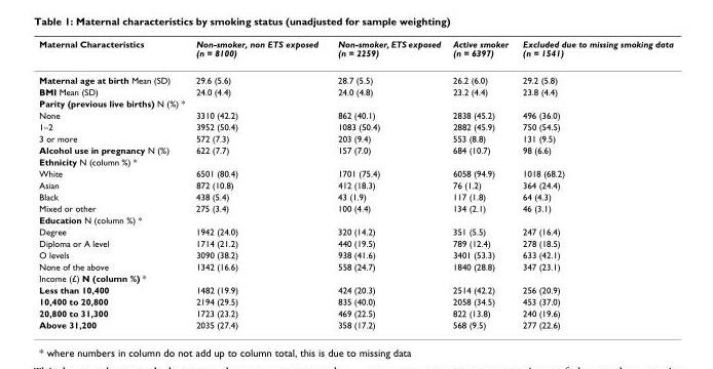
<table><thead><tr><td>Maternal Characteristics</td><td>Non-smoker, non ETS exposed (n = 8100)</td><td>Non-smoker, ETS exposed (n = 2259)</td><td>Active smoker (n = 6397)</td><td>Excluded due to missing smoking data (n = 1541)</td></tr></thead><tbody><tr><td>Maternal age at birth Mean (SD)</td><td>29.6 (5.6)</td><td>28.7 (5.5)</td><td>26.2 (6.0)</td><td>29.2 (5.8)</td></tr><tr><td>BMI Mean (SD)</td><td>24.0 (4.4)</td><td>24.0 (4.8)</td><td>23.2 (4.4)</td><td>23.8 (4.4)</td></tr><tr><td colspan="5">Parity (previous live births) N (%) *</td></tr><tr><td>None</td><td>3310 (42.2)</td><td>862 (40.1)</td><td>2838 (45.2)</td><td>496 (36.0)</td></tr><tr><td>1–2</td><td>3952 (50.4)</td><td>1083 (50.4)</td><td>2882 (45.9)</td><td>750 (54.5)</td></tr><tr><td>3 or more</td><td>572 (7.3)</td><td>203 (9.4)</td><td>553 (8.8)</td><td>131 (9.5)</td></tr><tr><td>Alcohol use in pregnancy N (%)</td><td>622 (7.7)</td><td>157 (7.0)</td><td>684 (10.7)</td><td>98 (6.6)</td></tr><tr><td colspan="5">Ethnicity N (column %) *</td></tr><tr><td>White</td><td>6501 (80.4)</td><td>1701 (75.4)</td><td>6058 (94.9)</td><td>1018 (68.2)</td></tr><tr><td>Asian</td><td>872 (10.8)</td><td>412 (18.3)</td><td>76 (1.2)</td><td>364 (24.4)</td></tr><tr><td>Black</td><td>438 (5.4)</td><td>43 (1.9)</td><td>117 (1.8)</td><td>64 (4.3)</td></tr><tr><td>Mixed or other</td><td>275 (3.4)</td><td>100 (4.4)</td><td>134 (2.1)</td><td>46 (3.1)</td></tr><tr><td colspan="5">Education N (column %) *</td></tr><tr><td>Degree</td><td>1942 (24.0)</td><td>320 (14.2)</td><td>351 (5.5)</td><td>247 (16.4)</td></tr><tr><td>Diploma or A level</td><td>1714 (21.2)</td><td>440 (19.5)</td><td>789 (12.4)</td><td>278 (18.5)</td></tr><tr><td>O levels</td><td>3090 (38.2)</td><td>938 (41.6)</td><td>3401 (53.3)</td><td>633 (42.1)</td></tr><tr><td>None of the above</td><td>1342 (16.6)</td><td>558 (24.7)</td><td>1840 (28.8)</td><td>347 (23.1)</td></tr><tr><td colspan="5">Income (£) N (column %) *</td></tr><tr><td>Less than 10,400</td><td>1482 (19.9)</td><td>424 (20.3)</td><td>2514 (42.2)</td><td>256 (20.9)</td></tr><tr><td>10,400 to 20,800</td><td>2194 (29.5)</td><td>835 (40.0)</td><td>2058 (34.5)</td><td>453 (37.0)</td></tr><tr><td>20,800 to 31,300</td><td>1723 (23.2)</td><td>469 (22.5)</td><td>822 (13.8)</td><td>240 (19.6)</td></tr><tr><td>Above 31,200</td><td>2035 (27.4)</td><td>358 (17.2)</td><td>568 (9.5)</td><td>277 (22.6)</td></tr></tbody></table>